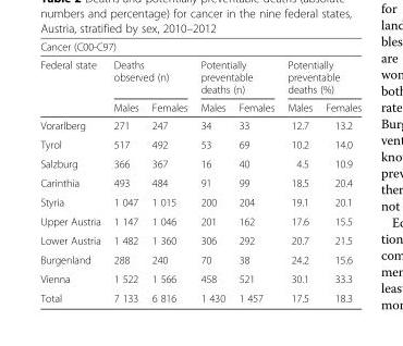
<table><thead><tr><td colspan="7">Cancer (C00-C97)</td></tr><tr><td rowspan="2">Federal state</td><td colspan="2">Deaths observed (n)</td><td colspan="2">Potentially preventable deaths (n)</td><td colspan="2">Potentially preventable deaths (%)</td></tr><tr><td>Males</td><td>Females</td><td>Males</td><td>Females</td><td>Males</td><td>Females</td></tr></thead><tbody><tr><td>Vorarlberg</td><td>271</td><td>247</td><td>34</td><td>33</td><td>12.7</td><td>13.2</td></tr><tr><td>Tyrol</td><td>517</td><td>492</td><td>53</td><td>69</td><td>10.2</td><td>14.0</td></tr><tr><td>Salzburg</td><td>366</td><td>367</td><td>16</td><td>40</td><td>4.5</td><td>10.9</td></tr><tr><td>Carinthia</td><td>493</td><td>484</td><td>91</td><td>99</td><td>18.5</td><td>20.4</td></tr><tr><td>Styria</td><td>1 047</td><td>1 015</td><td>200</td><td>204</td><td>19.1</td><td>20.1</td></tr><tr><td>Upper Austria</td><td>1 147</td><td>1 046</td><td>201</td><td>162</td><td>17.6</td><td>15.5</td></tr><tr><td>Lower Austria</td><td>1 482</td><td>1 360</td><td>306</td><td>292</td><td>20.7</td><td>21.5</td></tr><tr><td>Burgenland</td><td>288</td><td>240</td><td>70</td><td>38</td><td>24.2</td><td>15.6</td></tr><tr><td>Vienna</td><td>1 522</td><td>1 566</td><td>458</td><td>521</td><td>30.1</td><td>33.3</td></tr><tr><td>Total</td><td>7 133</td><td>6 816</td><td>1 430</td><td>1 457</td><td>17.5</td><td>18.3</td></tr></tbody></table>